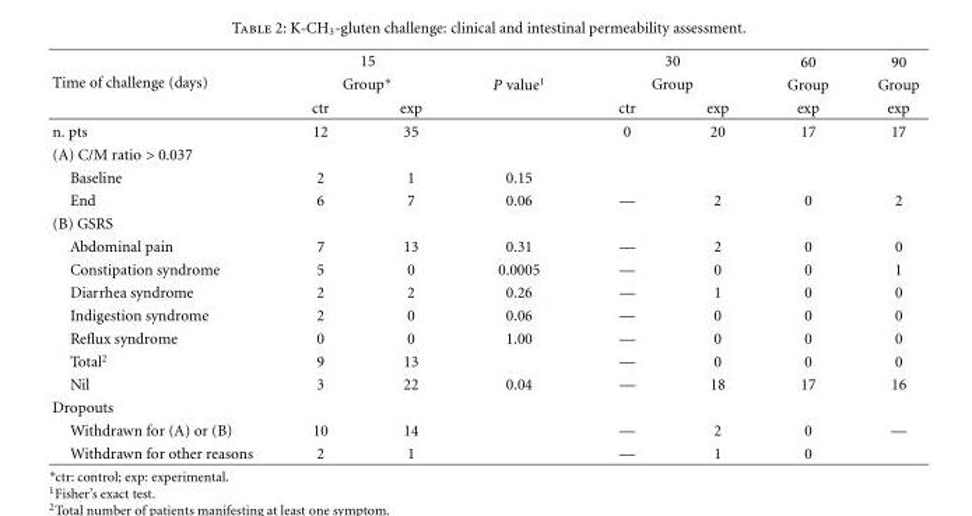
<table><thead><tr><td rowspan="3">Time of challenge (days)</td><td rowspan="2" colspan="2">15 Group∗</td><td rowspan="3">P value<sup>1</sup></td><td rowspan="2" colspan="2">30 Group</td><td rowspan="3">60 Group exp</td><td rowspan="3">90 Group exp</td></tr><tr></tr><tr><td>ctr</td><td>exp</td><td>ctr</td><td>exp</td></tr></thead><tbody><tr><td>n. pts</td><td>12</td><td>35</td><td></td><td>0</td><td>20</td><td>17</td><td>17</td></tr><tr><td colspan="8">(A) C/M ratio &gt; 0.037</td></tr><tr><td>Baseline</td><td>2</td><td>1</td><td>0.15</td><td></td><td></td><td></td><td></td></tr><tr><td>End</td><td>6</td><td>7</td><td>0.06</td><td>—</td><td>2</td><td>0</td><td>2</td></tr><tr><td colspan="8">(B) GSRS</td></tr><tr><td>Abdominal pain</td><td>7</td><td>13</td><td>0.31</td><td>—</td><td>2</td><td>0</td><td>0</td></tr><tr><td>Constipation syndrome</td><td>5</td><td>0</td><td>0.0005</td><td>—</td><td>0</td><td>0</td><td>1</td></tr><tr><td>Diarrhea syndrome</td><td>2</td><td>2</td><td>0.26</td><td>—</td><td>1</td><td>0</td><td>0</td></tr><tr><td>Indigestion syndrome</td><td>2</td><td>0</td><td>0.06</td><td>—</td><td>0</td><td>0</td><td>0</td></tr><tr><td>Reflux syndrome</td><td>0</td><td>0</td><td>1.00</td><td>—</td><td>0</td><td>0</td><td>0</td></tr><tr><td>Total<sup>2</sup></td><td>9</td><td>13</td><td></td><td>—</td><td>0</td><td>0</td><td>0</td></tr><tr><td>Nil</td><td>3</td><td>22</td><td>0.04</td><td>—</td><td>18</td><td>17</td><td>16</td></tr><tr><td colspan="8">Dropouts</td></tr><tr><td>Withdrawn for (A) or (B)</td><td>10</td><td>14</td><td></td><td>—</td><td>2</td><td>0</td><td>—</td></tr><tr><td>Withdrawn for other reasons</td><td>2</td><td>1</td><td></td><td>—</td><td>1</td><td>0</td><td></td></tr></tbody></table>